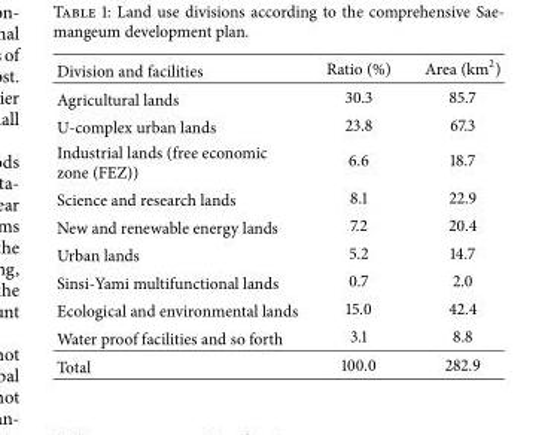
<table><thead><tr><td>Division and facilities</td><td>Ratio (%)</td><td>Area (km<sup>2</sup>)</td></tr></thead><tbody><tr><td>Agricultural lands</td><td>30.3</td><td>85.7</td></tr><tr><td>U-complex urban lands</td><td>23.8</td><td>67.3</td></tr><tr><td>Industrial lands (free economic zone (FEZ))</td><td>6.6</td><td>18.7</td></tr><tr><td>Science and research lands</td><td>8.1</td><td>22.9</td></tr><tr><td>New and renewable energy lands</td><td>7.2</td><td>20.4</td></tr><tr><td>Urban lands</td><td>5.2</td><td>14.7</td></tr><tr><td>Sinsi-Yami multifunctional lands</td><td>0.7</td><td>2.0</td></tr><tr><td>Ecological and environmental lands</td><td>15.0</td><td>42.4</td></tr><tr><td>Water proof facilities and so forth</td><td>3.1</td><td>8.8</td></tr><tr><td>Total</td><td>100.0</td><td>282.9</td></tr></tbody></table>